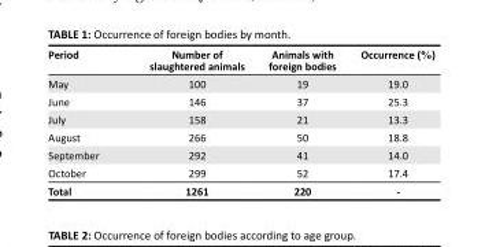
<table><thead><tr><td>Period</td><td>Number of slaughtered animals</td><td>Animals with foreign bodies</td><td>Occurrence (%)</td></tr></thead><tbody><tr><td>May</td><td>100</td><td>19</td><td>19.0</td></tr><tr><td>June</td><td>146</td><td>37</td><td>25.3</td></tr><tr><td>July</td><td>158</td><td>21</td><td>13.3</td></tr><tr><td>August</td><td>266</td><td>50</td><td>18.8</td></tr><tr><td>September</td><td>292</td><td>41</td><td>14.0</td></tr><tr><td>October</td><td>299</td><td>52</td><td>17.4</td></tr><tr><td>Total</td><td>1261</td><td>220</td><td>-</td></tr></tbody></table>